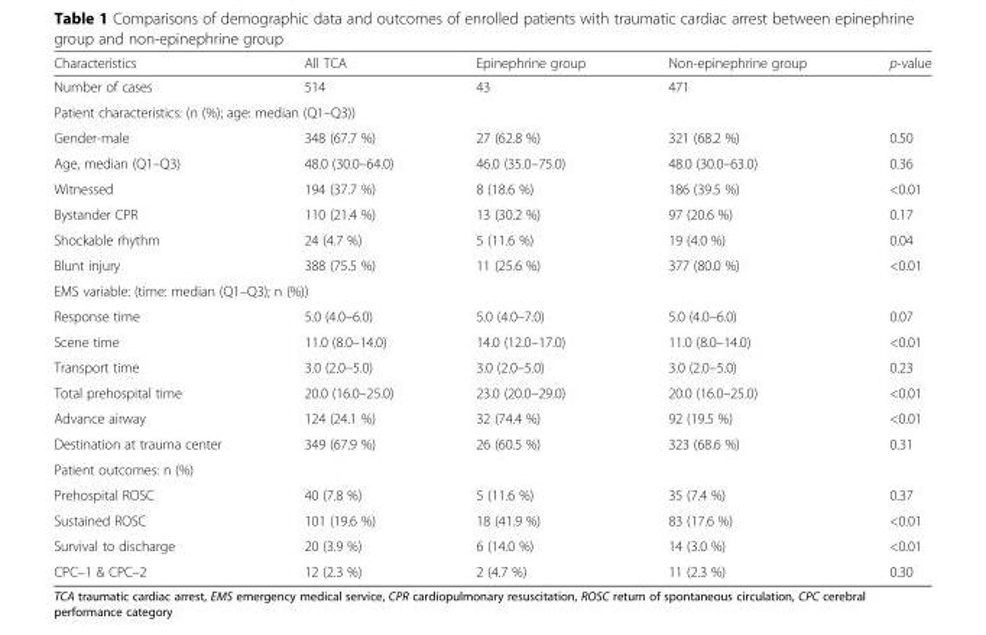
<table><thead><tr><td>Characteristics</td><td>All TCA</td><td>Epinephrine group</td><td>Non-epinephrine group</td><td>p-value</td></tr></thead><tbody><tr><td>Number of cases</td><td>514</td><td>43</td><td>471</td><td></td></tr><tr><td colspan="5">Patient characteristics: (n (%); age: median (Q1–Q3))</td></tr><tr><td>Gender-male</td><td>348 (67.7 %)</td><td>27 (62.8 %)</td><td>321 (68.2 %)</td><td>0.50</td></tr><tr><td>Age, median (Q1–Q3)</td><td>48.0 (30.0–64.0)</td><td>46.0 (35.0–75.0)</td><td>48.0 (30.0–63.0)</td><td>0.36</td></tr><tr><td>Witnessed</td><td>194 (37.7 %)</td><td>8 (18.6 %)</td><td>186 (39.5 %)</td><td>&lt;0.01</td></tr><tr><td>Bystander CPR</td><td>110 (21.4 %)</td><td>13 (30.2 %)</td><td>97 (20.6 %)</td><td>0.17</td></tr><tr><td>Shockable rhythm</td><td>24 (4.7 %)</td><td>5 (11.6 %)</td><td>19 (4.0 %)</td><td>0.04</td></tr><tr><td>Blunt injury</td><td>388 (75.5 %)</td><td>11 (25.6 %)</td><td>377 (80.0 %)</td><td>&lt;0.01</td></tr><tr><td colspan="5">EMS variable: (time: median (Q1–Q3); n (%))</td></tr><tr><td>Response time</td><td>5.0 (4.0–6.0)</td><td>5.0 (4.0–7.0)</td><td>5.0 (4.0–6.0)</td><td>0.07</td></tr><tr><td>Scene time</td><td>11.0 (8.0–14.0)</td><td>14.0 (12.0–17.0)</td><td>11.0 (8.0–14.0)</td><td>&lt;0.01</td></tr><tr><td>Transport time</td><td>3.0 (2.0–5.0)</td><td>3.0 (2.0–5.0)</td><td>3.0 (2.0–5.0)</td><td>0.23</td></tr><tr><td>Total prehospital time</td><td>20.0 (16.0–25.0)</td><td>23.0 (20.0–29.0)</td><td>20.0 (16.0–25.0)</td><td>&lt;0.01</td></tr><tr><td>Advance airway</td><td>124 (24.1 %)</td><td>32 (74.4 %)</td><td>92 (19.5 %)</td><td>&lt;0.01</td></tr><tr><td>Destination at trauma center</td><td>349 (67.9 %)</td><td>26 (60.5 %)</td><td>323 (68.6 %)</td><td>0.31</td></tr><tr><td colspan="5">Patient outcomes: n (%)</td></tr><tr><td>Prehospital ROSC</td><td>40 (7.8 %)</td><td>5 (11.6 %)</td><td>35 (7.4 %)</td><td>0.37</td></tr><tr><td>Sustained ROSC</td><td>101 (19.6 %)</td><td>18 (41.9 %)</td><td>83 (17.6 %)</td><td>&lt;0.01</td></tr><tr><td>Survival to discharge</td><td>20 (3.9 %)</td><td>6 (14.0 %)</td><td>14 (3.0 %)</td><td>&lt;0.01</td></tr><tr><td>CPC–1 &amp; CPC–2</td><td>12 (2.3 %)</td><td>2 (4.7 %)</td><td>11 (2.3 %)</td><td>0.30</td></tr></tbody></table>